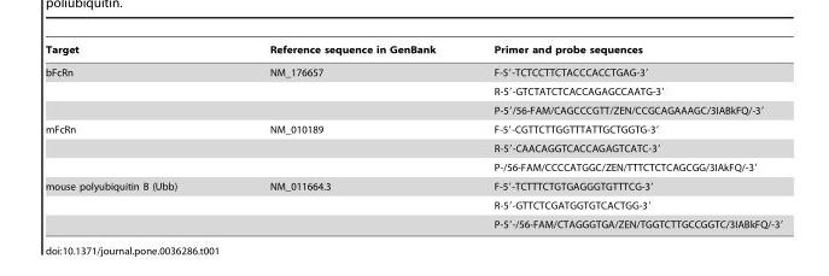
<table><thead><tr><td>Target</td><td>Reference sequence in GenBank</td><td>Primer and probe sequences</td></tr></thead><tbody><tr><td rowspan="3">bFcRn</td><td>NM_176657</td><td>F-5′-TCTCCTTCTACCCACCTGAG-3′</td></tr><tr><td></td><td>R-5′-GTCTATCTCACCAGAGCCAATG-3′</td></tr><tr><td></td><td>P-5′/56-FAM/CAGCCCGTT/ZEN/CCGCAGAAAGC/3IABkFQ/-3′</td></tr><tr><td rowspan="3">mFcRn</td><td>NM_010189</td><td>F-5′-CGTTCTTGGTTTATTGCTGGTG-3′</td></tr><tr><td></td><td>R-5′-CAACAGGTCACCAGAGTCATC-3′</td></tr><tr><td></td><td>P-/56-FAM/CCCCATGGC/ZEN/TTTCTCTCAGCGG/3IAkFQ/-3′</td></tr><tr><td rowspan="3">mouse polyubiquitin B (Ubb)</td><td>NM_011664.3</td><td>F-5′-TCTTTCTGTGAGGGTGTTTCG-3′</td></tr><tr><td></td><td>R-5′-GTTCTCGATGGTGTCACTGG-3′</td></tr><tr><td></td><td>P-5′-/56-FAM/CTAGGGTGA/ZEN/TGGTCTTGCCGGTC/3IABkFQ/-3′</td></tr></tbody></table>